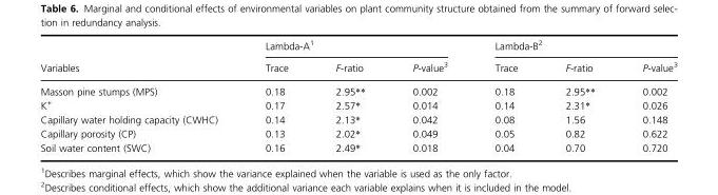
<table><thead><tr><td rowspan="2">Variables</td><td colspan="3">Lambda-A<sup>1</sup></td><td colspan="3">Lambda-B<sup>2</sup></td></tr><tr><td>Trace</td><td>F-ratio</td><td>P-value<sup>3</sup></td><td>Trace</td><td>F-ratio</td><td>P-value<sup>3</sup></td></tr></thead><tbody><tr><td>Masson pine stumps (MPS)</td><td>0.18</td><td>2.95**</td><td>0.002</td><td>0.18</td><td>2.95**</td><td>0.002</td></tr><tr><td>K<sup>+</sup></td><td>0.17</td><td>2.57*</td><td>0.014</td><td>0.14</td><td>2.31*</td><td>0.026</td></tr><tr><td>Capillary water holding capacity (CWHC)</td><td>0.14</td><td>2.13*</td><td>0.042</td><td>0.08</td><td>1.56</td><td>0.148</td></tr><tr><td>Capillary porosity (CP)</td><td>0.13</td><td>2.02*</td><td>0.049</td><td>0.05</td><td>0.82</td><td>0.622</td></tr><tr><td>Soil water content (SWC)</td><td>0.16</td><td>2.49*</td><td>0.018</td><td>0.04</td><td>0.70</td><td>0.720</td></tr></tbody></table>